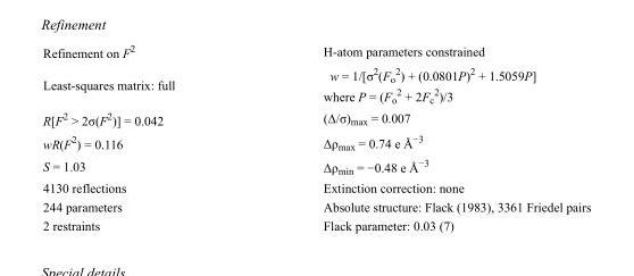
<table><tbody><tr><td>Refinement on F<sup>2</sup></td><td>H-atom parameters constrained</td></tr><tr><td>Least-squares matrix: full</td><td>w = 1/[σ<sup>2</sup>(F<sub>o</sub> <sup>2</sup>) + (0.0801P)<sup>2</sup> + 1.5059P] where P = (F<sub>o</sub> <sup>2</sup> + 2F<sub>c</sub> <sup>2</sup>)/3</td></tr><tr><td>R[F<sup>2</sup> &gt; 2σ(F<sup>2</sup>)] = 0.042</td><td>(Δ/σ)<sub>max</sub> = 0.007</td></tr><tr><td>wR(F<sup>2</sup>) = 0.116</td><td>Δρ<sub>max</sub> = 0.74 e Å<sup>−3</sup></td></tr><tr><td>S = 1.03</td><td>Δρ<sub>min</sub> = −0.48 e Å<sup>−3</sup></td></tr><tr><td>4130 reflections</td><td>Extinction correction: none</td></tr><tr><td>244 parameters</td><td>Absolute structure: Flack (1983), 3361 Friedel pairs</td></tr><tr><td>2 restraints</td><td>Flack parameter: 0.03 (7)</td></tr></tbody></table>